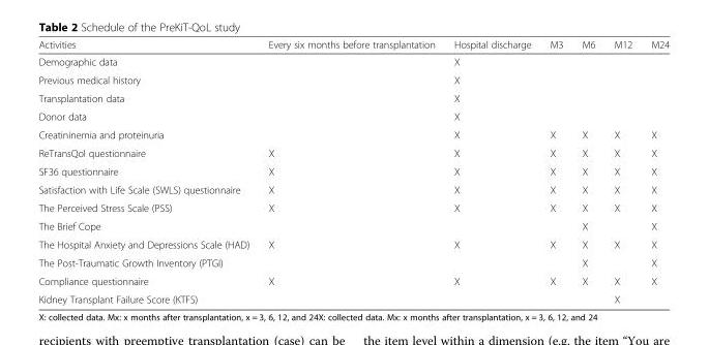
<table><thead><tr><td>Activities</td><td>Every six months before transplantation</td><td>Hospital discharge</td><td>M3</td><td>M6</td><td>M12</td><td>M24</td></tr></thead><tbody><tr><td>Demographic data</td><td></td><td>X</td><td></td><td></td><td></td><td></td></tr><tr><td>Previous medical history</td><td></td><td>X</td><td></td><td></td><td></td><td></td></tr><tr><td>Transplantation data</td><td></td><td>X</td><td></td><td></td><td></td><td></td></tr><tr><td>Donor data</td><td></td><td>X</td><td></td><td></td><td></td><td></td></tr><tr><td>Creatininemia and proteinuria</td><td></td><td>X</td><td>X</td><td>X</td><td>X</td><td>X</td></tr><tr><td>ReTransQol questionnaire</td><td>X</td><td>X</td><td>X</td><td>X</td><td>X</td><td>X</td></tr><tr><td>SF36 questionnaire</td><td>X</td><td>X</td><td>X</td><td>X</td><td>X</td><td>X</td></tr><tr><td>Satisfaction with Life Scale (SWLS) questionnaire</td><td>X</td><td>X</td><td>X</td><td>X</td><td>X</td><td>X</td></tr><tr><td>The Perceived Stress Scale (PSS)</td><td>X</td><td>X</td><td>X</td><td>X</td><td>X</td><td>X</td></tr><tr><td>The Brief Cope</td><td></td><td></td><td></td><td>X</td><td></td><td>X</td></tr><tr><td>The Hospital Anxiety and Depressions Scale (HAD)</td><td>X</td><td>X</td><td>X</td><td>X</td><td>X</td><td>X</td></tr><tr><td>The Post-Traumatic Growth Inventory (PTGI)</td><td></td><td></td><td></td><td>X</td><td></td><td>X</td></tr><tr><td>Compliance questionnaire</td><td>X</td><td>X</td><td>X</td><td>X</td><td>X</td><td>X</td></tr><tr><td>Kidney Transplant Failure Score (KTFS)</td><td></td><td></td><td></td><td></td><td>X</td><td></td></tr></tbody></table>